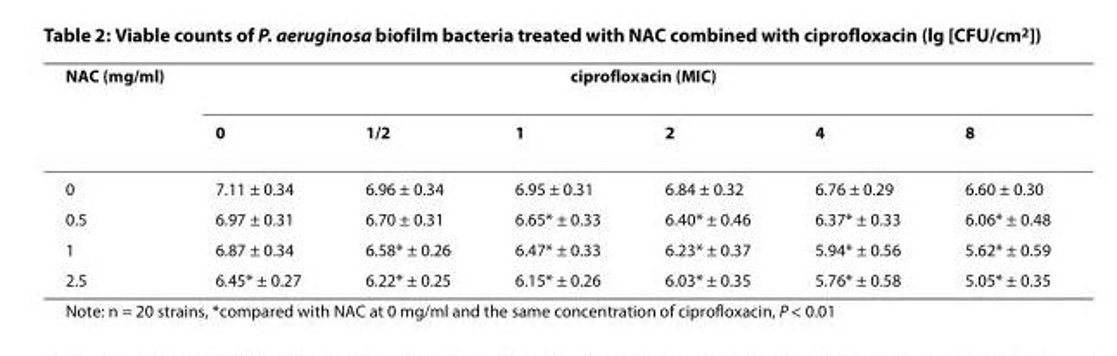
<table><thead><tr><td rowspan="2">NAC (mg/ml)</td><td colspan="6">ciprofloxacin (MIC)</td></tr><tr><td>0</td><td>1/2</td><td>1</td><td>2</td><td>4</td><td>8</td></tr></thead><tbody><tr><td>0</td><td>7.11 ± 0.34</td><td>6.96 ± 0.34</td><td>6.95 ± 0.31</td><td>6.84 ± 0.32</td><td>6.76 ± 0.29</td><td>6.60 ± 0.30</td></tr><tr><td>0.5</td><td>6.97 ± 0.31</td><td>6.70 ± 0.31</td><td>6.65* ± 0.33</td><td>6.40* ± 0.46</td><td>6.37* ± 0.33</td><td>6.06* ± 0.48</td></tr><tr><td>1</td><td>6.87 ± 0.34</td><td>6.58* ± 0.26</td><td>6.47* ± 0.33</td><td>6.23* ± 0.37</td><td>5.94* ± 0.56</td><td>5.62* ± 0.59</td></tr><tr><td>2.5</td><td>6.45* ± 0.27</td><td>6.22* ± 0.25</td><td>6.15* ± 0.26</td><td>6.03* ± 0.35</td><td>5.76* ± 0.58</td><td>5.05* ± 0.35</td></tr></tbody></table>